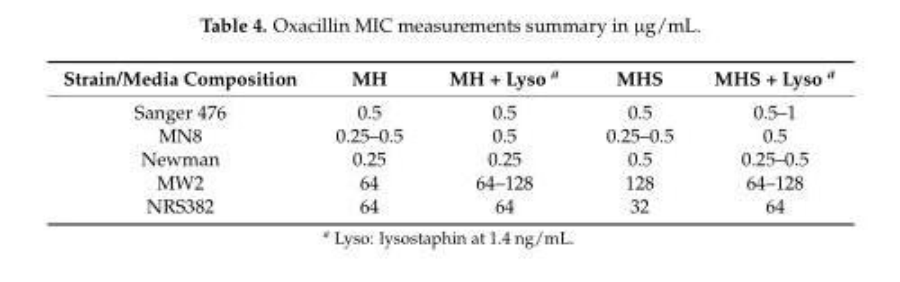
<table><thead><tr><td>Strain/Media Composition</td><td>MH</td><td>MH + Lyso <sup>a</sup></td><td>MHS</td><td>MHS + Lyso <sup>a</sup></td></tr></thead><tbody><tr><td>Sanger 476</td><td>0.5</td><td>0.5</td><td>0.5</td><td>0.5–1</td></tr><tr><td>MN8</td><td>0.25–0.5</td><td>0.5</td><td>0.25–0.5</td><td>0.5</td></tr><tr><td>Newman</td><td>0.25</td><td>0.25</td><td>0.5</td><td>0.25–0.5</td></tr><tr><td>MW2</td><td>64</td><td>64–128</td><td>128</td><td>64–128</td></tr><tr><td>NRS382</td><td>64</td><td>64</td><td>32</td><td>64</td></tr></tbody></table>